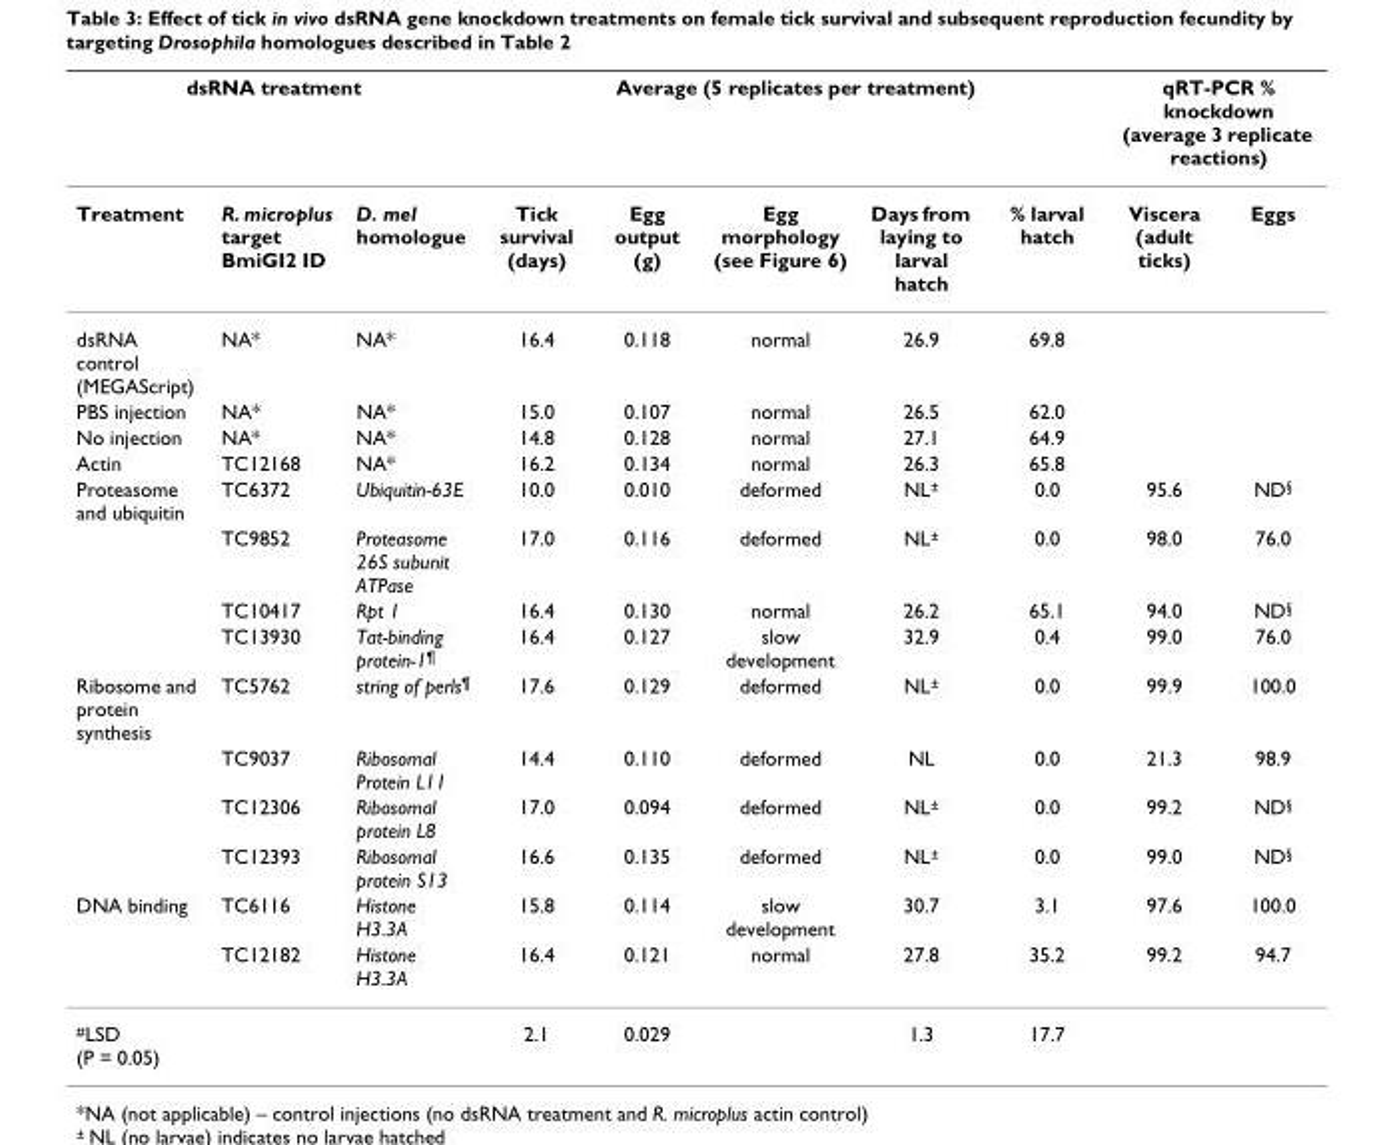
<table><thead><tr><td colspan="3">dsRNA treatment</td><td colspan="5">Average (5 replicates per treatment)</td><td colspan="2">qRT-PCR % knockdown (average 3 replicate reactions)</td></tr><tr><td>Treatment</td><td>R. microplus target BmiGI2 ID</td><td>D. mel homologue</td><td>Tick survival (days)</td><td>Egg output (g)</td><td>Egg morphology (see Figure 6)</td><td>Days from laying to larval hatch</td><td>% larval hatch</td><td>Viscera (adult ticks)</td><td>Eggs</td></tr></thead><tbody><tr><td>dsRNA control (MEGAScript)</td><td>NA*</td><td>NA*</td><td>16.4</td><td>0.118</td><td>normal</td><td>26.9</td><td>69.8</td><td></td><td></td></tr><tr><td>PBS injection</td><td>NA*</td><td>NA*</td><td>15.0</td><td>0.107</td><td>normal</td><td>26.5</td><td>62.0</td><td></td><td></td></tr><tr><td>No injection</td><td>NA*</td><td>NA*</td><td>14.8</td><td>0.128</td><td>normal</td><td>27.1</td><td>64.9</td><td></td><td></td></tr><tr><td>Actin</td><td>TC12168</td><td>NA*</td><td>16.2</td><td>0.134</td><td>normal</td><td>26.3</td><td>65.8</td><td></td><td></td></tr><tr><td rowspan="4">Proteasome and ubiquitin</td><td>TC6372</td><td>Ubiquitin-63E</td><td>10.0</td><td>0.010</td><td>deformed</td><td>NL<sup>±</sup></td><td>0.0</td><td>95.6</td><td>ND<sup>§</sup></td></tr><tr><td>TC9852</td><td>Proteasome 26S subunit ATPase</td><td>17.0</td><td>0.116</td><td>deformed</td><td>NL<sup>±</sup></td><td>0.0</td><td>98.0</td><td>76.0</td></tr><tr><td>TC10417</td><td>Rpt 1</td><td>16.4</td><td>0.130</td><td>normal</td><td>26.2</td><td>65.1</td><td>94.0</td><td>ND<sup>§</sup></td></tr><tr><td>TC13930</td><td>Tat-binding protein-1<sup>¶</sup></td><td>16.4</td><td>0.127</td><td>slow development</td><td>32.9</td><td>0.4</td><td>99.0</td><td>76.0</td></tr><tr><td rowspan="4">Ribosome and protein synthesis</td><td>TC5762</td><td>string of perls<sup>¶</sup></td><td>17.6</td><td>0.129</td><td>deformed</td><td>NL<sup>±</sup></td><td>0.0</td><td>99.9</td><td>100.0</td></tr><tr><td>TC9037</td><td>Ribosomal Protein L11</td><td>14.4</td><td>0.110</td><td>deformed</td><td>NL</td><td>0.0</td><td>21.3</td><td>98.9</td></tr><tr><td>TC12306</td><td>Ribosomal protein L8</td><td>17.0</td><td>0.094</td><td>deformed</td><td>NL<sup>±</sup></td><td>0.0</td><td>99.2</td><td>ND<sup>§</sup></td></tr><tr><td>TC12393</td><td>Ribosomal protein S13</td><td>16.6</td><td>0.135</td><td>deformed</td><td>NL<sup>±</sup></td><td>0.0</td><td>99.0</td><td>ND<sup>§</sup></td></tr><tr><td rowspan="2">DNA binding</td><td>TC6116</td><td>Histone H3.3A</td><td>15.8</td><td>0.114</td><td>slow development</td><td>30.7</td><td>3.1</td><td>97.6</td><td>100.0</td></tr><tr><td>TC12182</td><td>Histone H3.3A</td><td>16.4</td><td>0.121</td><td>normal</td><td>27.8</td><td>35.2</td><td>99.2</td><td>94.7</td></tr><tr><td><sup>#</sup>LSD (P = 0.05)</td><td></td><td></td><td>2.1</td><td>0.029</td><td></td><td>1.3</td><td>17.7</td><td></td><td></td></tr></tbody></table>